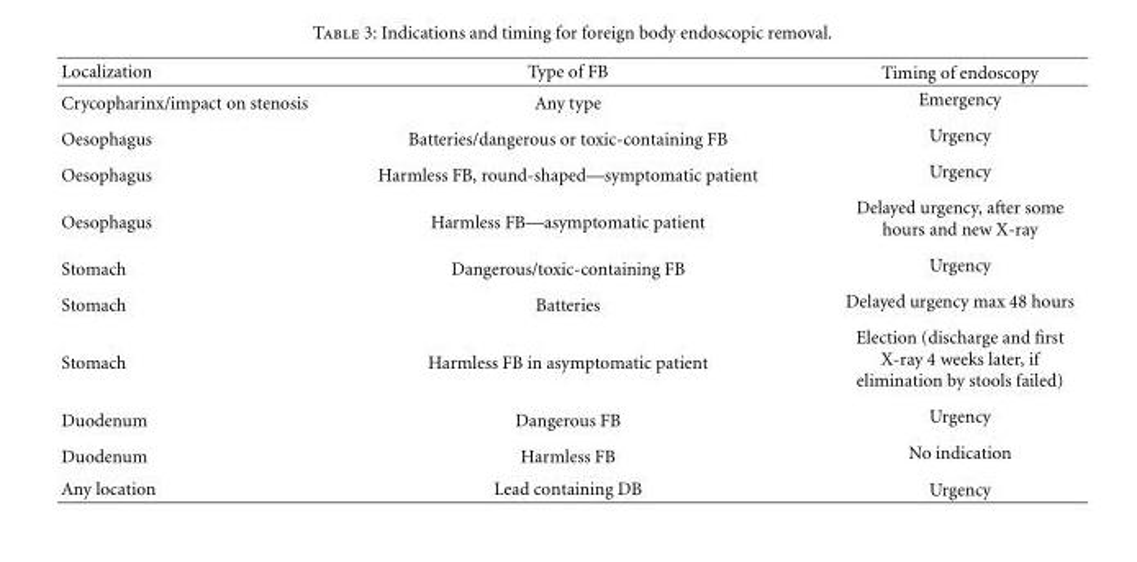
<table><thead><tr><td>Localization</td><td>Type of FB</td><td>Timing of endoscopy</td></tr></thead><tbody><tr><td>Crycopharinx/impact on stenosis</td><td>Any type</td><td>Emergency</td></tr><tr><td>Oesophagus</td><td>Batteries/dangerous or toxic-containing FB</td><td>Urgency</td></tr><tr><td>Oesophagus</td><td>Harmless FB, round-shaped—symptomatic patient</td><td>Urgency</td></tr><tr><td>Oesophagus</td><td>Harmless FB—asymptomatic patient</td><td>Delayed urgency, after some hours and new X-ray</td></tr><tr><td>Stomach</td><td>Dangerous/toxic-containing FB</td><td>Urgency</td></tr><tr><td>Stomach</td><td>Batteries</td><td>Delayed urgency max 48 hours</td></tr><tr><td>Stomach</td><td>Harmless FB in asymptomatic patient</td><td>Election (discharge and first X-ray 4 weeks later, if elimination by stools failed)</td></tr><tr><td>Duodenum</td><td>Dangerous FB</td><td>Urgency</td></tr><tr><td>Duodenum</td><td>Harmless FB</td><td>No indication</td></tr><tr><td>Any location</td><td>Lead containing DB</td><td>Urgency</td></tr></tbody></table>